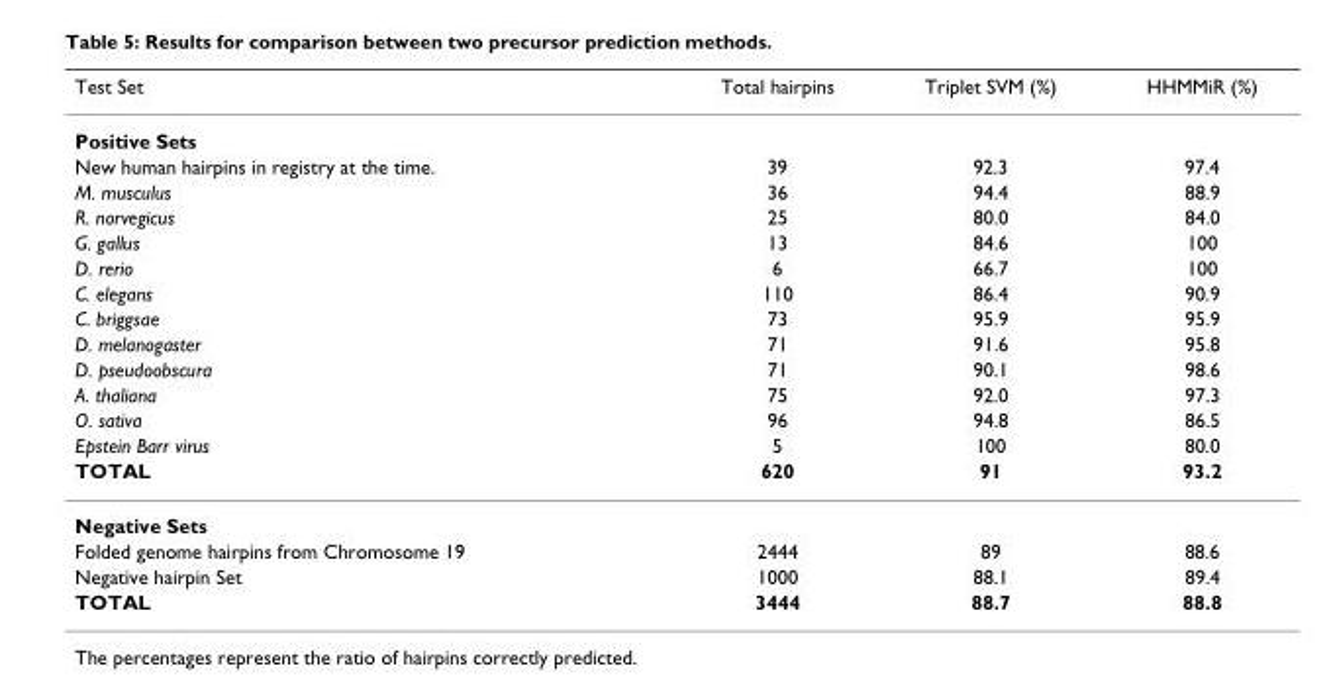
<table><thead><tr><td>Test Set</td><td>Total hairpins</td><td>Triplet SVM (%)</td><td>HHMMiR (%)</td></tr></thead><tbody><tr><td colspan="4">Positive Sets</td></tr><tr><td>New human hairpins in registry at the time.</td><td>39</td><td>92.3</td><td>97.4</td></tr><tr><td>M. musculus</td><td>36</td><td>94.4</td><td>88.9</td></tr><tr><td>R. norvegicus</td><td>25</td><td>80.0</td><td>84.0</td></tr><tr><td>G. gallus</td><td>13</td><td>84.6</td><td>100</td></tr><tr><td>D. rerio</td><td>6</td><td>66.7</td><td>100</td></tr><tr><td>C. elegans</td><td>110</td><td>86.4</td><td>90.9</td></tr><tr><td>C. briggsae</td><td>73</td><td>95.9</td><td>95.9</td></tr><tr><td>D. melanogaster</td><td>71</td><td>91.6</td><td>95.8</td></tr><tr><td>D. pseudoobscura</td><td>71</td><td>90.1</td><td>98.6</td></tr><tr><td>A. thaliana</td><td>75</td><td>92.0</td><td>97.3</td></tr><tr><td>O. sativa</td><td>96</td><td>94.8</td><td>86.5</td></tr><tr><td>Epstein Barr virus</td><td>5</td><td>100</td><td>80.0</td></tr><tr><td>TOTAL</td><td>620</td><td>91</td><td>93.2</td></tr><tr><td colspan="4">Negative Sets</td></tr><tr><td>Folded genome hairpins from Chromosome 19</td><td>2444</td><td>89</td><td>88.6</td></tr><tr><td>Negative hairpin Set</td><td>1000</td><td>88.1</td><td>89.4</td></tr><tr><td>TOTAL</td><td>3444</td><td>88.7</td><td>88.8</td></tr></tbody></table>